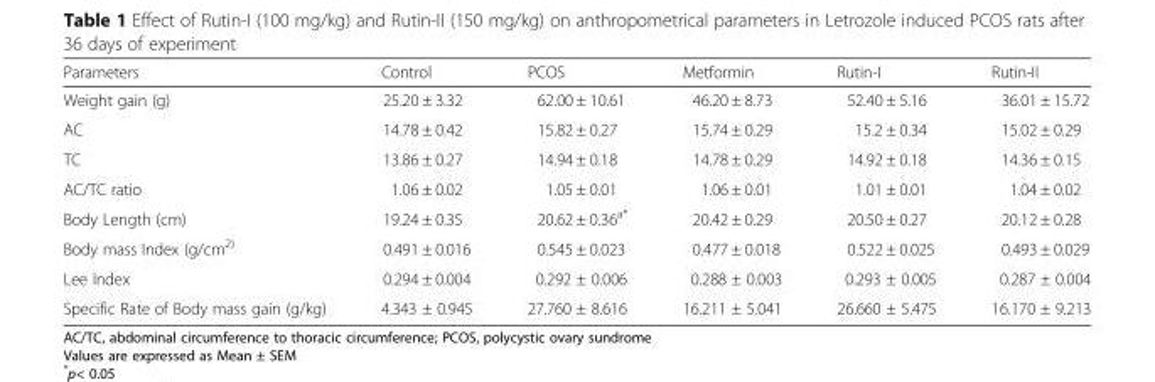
<table><thead><tr><td>Parameters</td><td>Control</td><td>PCOS</td><td>Metformin</td><td>Rutin-I</td><td>Rutin-II</td></tr></thead><tbody><tr><td>Weight gain (g)</td><td>25.20 ± 3.32</td><td>62.00 ± 10.61</td><td>46.20 ± 8.73</td><td>52.40 ± 5.16</td><td>36.01 ± 15.72</td></tr><tr><td>AC</td><td>14.78 ± 0.42</td><td>15.82 ± 0.27</td><td>15.74 ± 0.29</td><td>15.2 ± 0.34</td><td>15.02 ± 0.29</td></tr><tr><td>TC</td><td>13.86 ± 0.27</td><td>14.94 ± 0.18</td><td>14.78 ± 0.29</td><td>14.92 ± 0.18</td><td>14.36 ± 0.15</td></tr><tr><td>AC/TC ratio</td><td>1.06 ± 0.02</td><td>1.05 ± 0.01</td><td>1.06 ± 0.01</td><td>1.01 ± 0.01</td><td>1.04 ± 0.02</td></tr><tr><td>Body Length (cm)</td><td>19.24 ± 0.35</td><td>20.62 ± 0.36<sup>a*</sup></td><td>20.42 ± 0.29</td><td>20.50 ± 0.27</td><td>20.12 ± 0.28</td></tr><tr><td>Body mass Index (g/cm<sup>2)</sup></td><td>0.491 ± 0.016</td><td>0.545 ± 0.023</td><td>0.477 ± 0.018</td><td>0.522 ± 0.025</td><td>0.493 ± 0.029</td></tr><tr><td>Lee Index</td><td>0.294 ± 0.004</td><td>0.292 ± 0.006</td><td>0.288 ± 0.003</td><td>0.293 ± 0.005</td><td>0.287 ± 0.004</td></tr><tr><td>Specific Rate of Body mass gain (g/kg)</td><td>4.343 ± 0.945</td><td>27.760 ± 8.616</td><td>16.211 ± 5.041</td><td>26.660 ± 5.475</td><td>16.170 ± 9.213</td></tr></tbody></table>